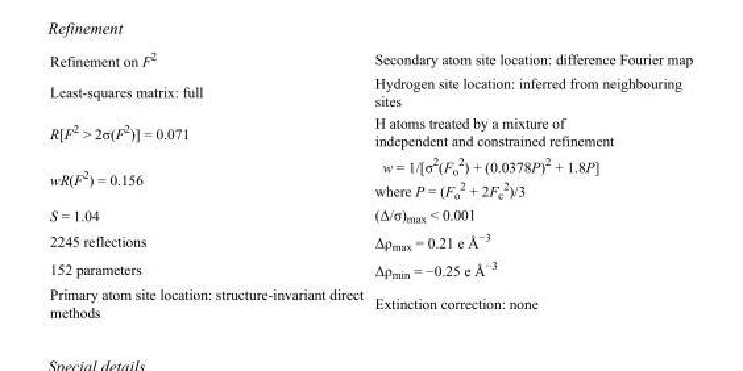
<table><tbody><tr><td>Refinement on F<sup>2</sup></td><td>Secondary atom site location: difference Fourier map</td></tr><tr><td>Least-squares matrix: full</td><td>Hydrogen site location: inferred from neighbouring sites</td></tr><tr><td>R[F<sup>2</sup> &gt; 2σ(F<sup>2</sup>)] = 0.071</td><td>H atoms treated by a mixture of independent and constrained refinement</td></tr><tr><td>wR(F<sup>2</sup>) = 0.156</td><td>w = 1/[σ<sup>2</sup>(F<sub>o</sub> <sup>2</sup>) + (0.0378P)<sup>2</sup> + 1.8P] where P = (F<sub>o</sub> <sup>2</sup> + 2F<sub>c</sub> <sup>2</sup>)/3</td></tr><tr><td>S = 1.04</td><td>(Δ/σ)<sub>max</sub> &lt; 0.001</td></tr><tr><td>2245 reflections</td><td>Δρ<sub>max</sub> = 0.21 e Å<sup>−3</sup></td></tr><tr><td>152 parameters</td><td>Δρ<sub>min</sub> = −0.25 e Å<sup>−3</sup></td></tr><tr><td>Primary atom site location: structure-invariant direct methods</td><td>Extinction correction: none</td></tr></tbody></table>